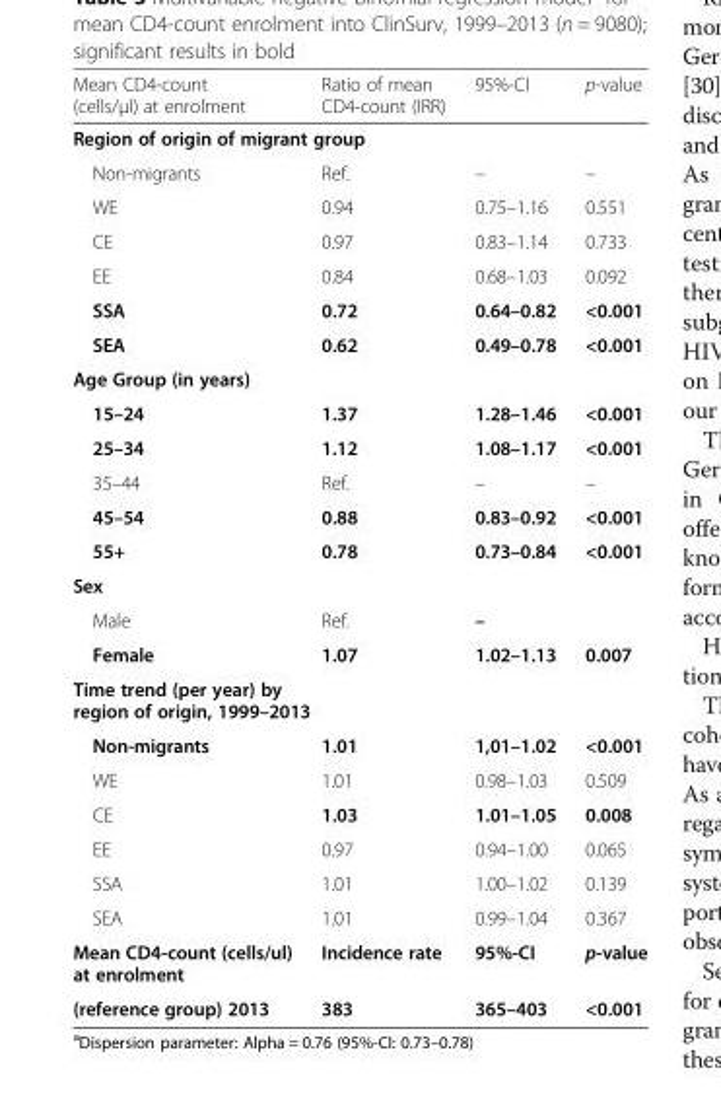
<table><thead><tr><td>Mean CD4-count (cells/μl) at enrolment</td><td>Ratio of mean CD4-count (IRR)</td><td>95%-CI</td><td>p-value</td></tr></thead><tbody><tr><td colspan="4">Region of origin of migrant group</td></tr><tr><td>Non-migrants</td><td>Ref.</td><td>–</td><td>–</td></tr><tr><td>WE</td><td>0.94</td><td>0.75–1.16</td><td>0.551</td></tr><tr><td>CE</td><td>0.97</td><td>0.83–1.14</td><td>0.733</td></tr><tr><td>EE</td><td>0.84</td><td>0.68–1.03</td><td>0.092</td></tr><tr><td>SSA</td><td>0.72</td><td>0.64–0.82</td><td>&lt;0.001</td></tr><tr><td>SEA</td><td>0.62</td><td>0.49–0.78</td><td>&lt;0.001</td></tr><tr><td colspan="4">Age Group (in years)</td></tr><tr><td>15–24</td><td>1.37</td><td>1.28–1.46</td><td>&lt;0.001</td></tr><tr><td>25–34</td><td>1.12</td><td>1.08–1.17</td><td>&lt;0.001</td></tr><tr><td>35–44</td><td>Ref.</td><td>–</td><td>–</td></tr><tr><td>45–54</td><td>0.88</td><td>0.83–0.92</td><td>&lt;0.001</td></tr><tr><td>55+</td><td>0.78</td><td>0.73–0.84</td><td>&lt;0.001</td></tr><tr><td colspan="4">Sex</td></tr><tr><td>Male</td><td>Ref.</td><td>–</td><td></td></tr><tr><td>Female</td><td>1.07</td><td>1.02–1.13</td><td>0.007</td></tr><tr><td colspan="4">Time trend (per year) by region of origin, 1999–2013</td></tr><tr><td>Non-migrants</td><td>1.01</td><td>1,01–1.02</td><td>&lt;0.001</td></tr><tr><td>WE</td><td>1.01</td><td>0.98–1.03</td><td>0.509</td></tr><tr><td>CE</td><td>1.03</td><td>1.01–1.05</td><td>0.008</td></tr><tr><td>EE</td><td>0.97</td><td>0.94–1.00</td><td>0.065</td></tr><tr><td>SSA</td><td>1.01</td><td>1.00–1.02</td><td>0.139</td></tr><tr><td>SEA</td><td>1.01</td><td>0.99–1.04</td><td>0.367</td></tr><tr><td>Mean CD4-count (cells/ul) at enrolment</td><td>Incidence rate</td><td>95%-CI</td><td>p-value</td></tr><tr><td>(reference group) 2013</td><td>383</td><td>365–403</td><td>&lt;0.001</td></tr></tbody></table>